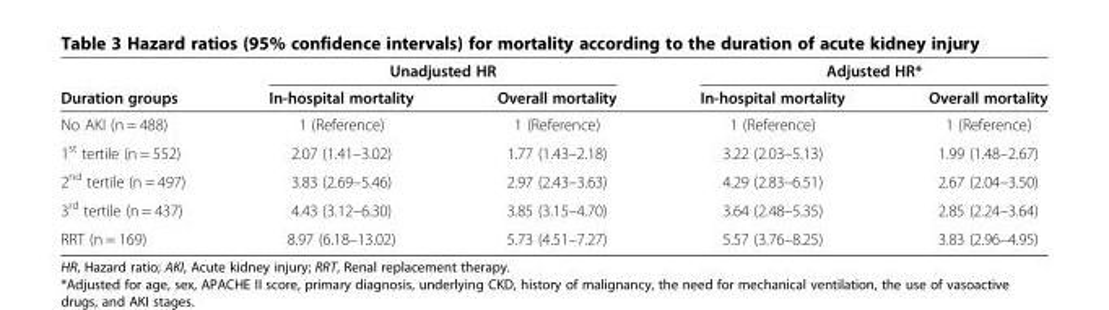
<table><thead><tr><td rowspan="2">Duration groups</td><td colspan="2">Unadjusted HR</td><td colspan="2">Adjusted HR*</td></tr><tr><td>In-hospital mortality</td><td>Overall mortality</td><td>In-hospital mortality</td><td>Overall mortality</td></tr></thead><tbody><tr><td>No AKI (n = 488)</td><td>1 (Reference)</td><td>1 (Reference)</td><td>1 (Reference)</td><td>1 (Reference)</td></tr><tr><td>1<sup>st</sup> tertile (n = 552)</td><td>2.07 (1.41–3.02)</td><td>1.77 (1.43–2.18)</td><td>3.22 (2.03–5.13)</td><td>1.99 (1.48–2.67)</td></tr><tr><td>2<sup>nd</sup> tertile (n = 497)</td><td>3.83 (2.69–5.46)</td><td>2.97 (2.43–3.63)</td><td>4.29 (2.83–6.51)</td><td>2.67 (2.04–3.50)</td></tr><tr><td>3<sup>rd</sup> tertile (n = 437)</td><td>4.43 (3.12–6.30)</td><td>3.85 (3.15–4.70)</td><td>3.64 (2.48–5.35)</td><td>2.85 (2.24–3.64)</td></tr><tr><td>RRT (n = 169)</td><td>8.97 (6.18–13.02)</td><td>5.73 (4.51–7.27)</td><td>5.57 (3.76–8.25)</td><td>3.83 (2.96–4.95)</td></tr></tbody></table>